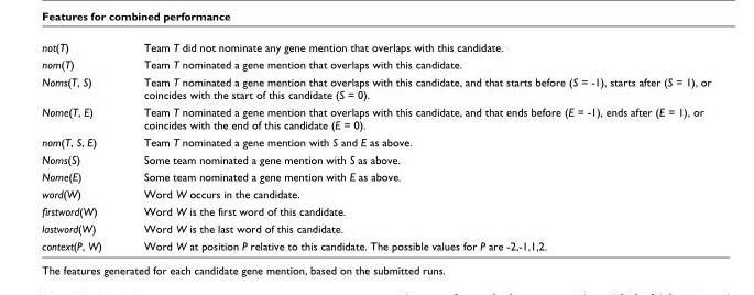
<table><tbody><tr><td>not(T)</td><td>Team T did not nominate any gene mention that overlaps with this candidate.</td></tr><tr><td>nom(T)</td><td>Team T nominated a gene mention that overlaps with this candidate.</td></tr><tr><td>Noms(T, S)</td><td>Team T nominated a gene mention that overlaps with this candidate, and that starts before (S = -1), starts after (S = 1), or coincides with the start of this candidate (S = 0).</td></tr><tr><td>Nome(T, E)</td><td>Team T nominated a gene mention that overlaps with this candidate, and that ends before (E = -1), ends after (E = 1), or coincides with the end of this candidate (E = 0).</td></tr><tr><td>nom(T, S, E)</td><td>Team T nominated a gene mention with S and E as above.</td></tr><tr><td>Noms(S)</td><td>Some team nominated a gene mention with S as above.</td></tr><tr><td>Nome(E)</td><td>Some team nominated a gene mention with E as above.</td></tr><tr><td>word(W)</td><td>Word W occurs in the candidate.</td></tr><tr><td>firstword(W)</td><td>Word W is the first word of this candidate.</td></tr><tr><td>lastword(W)</td><td>Word W is the last word of this candidate.</td></tr><tr><td>context(P, W)</td><td>Word W at position P relative to this candidate. The possible values for P are -2,-1,1,2.</td></tr></tbody></table>